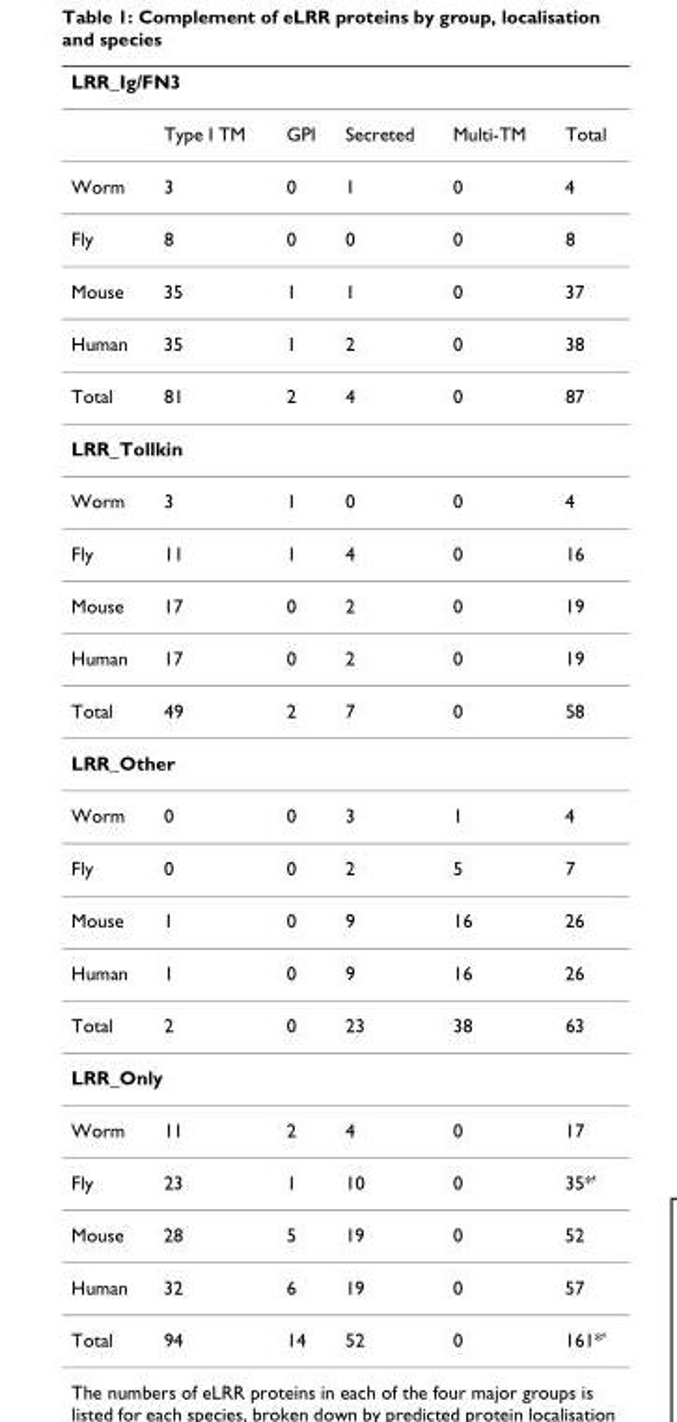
<table><thead><tr><td colspan="6">LRR_Ig/FN3</td></tr><tr><td></td><td>Type I TM</td><td>GPI</td><td>Secreted</td><td>Multi-TM</td><td>Total</td></tr></thead><tbody><tr><td>Worm</td><td>3</td><td>0</td><td>1</td><td>0</td><td>4</td></tr><tr><td>Fly</td><td>8</td><td>0</td><td>0</td><td>0</td><td>8</td></tr><tr><td>Mouse</td><td>35</td><td>1</td><td>1</td><td>0</td><td>37</td></tr><tr><td>Human</td><td>35</td><td>1</td><td>2</td><td>0</td><td>38</td></tr><tr><td>Total</td><td>81</td><td>2</td><td>4</td><td>0</td><td>87</td></tr><tr><td colspan="6">LRR_Tollkin</td></tr><tr><td>Worm</td><td>3</td><td>1</td><td>0</td><td>0</td><td>4</td></tr><tr><td>Fly</td><td>11</td><td>1</td><td>4</td><td>0</td><td>16</td></tr><tr><td>Mouse</td><td>17</td><td>0</td><td>2</td><td>0</td><td>19</td></tr><tr><td>Human</td><td>17</td><td>0</td><td>2</td><td>0</td><td>19</td></tr><tr><td>Total</td><td>49</td><td>2</td><td>7</td><td>0</td><td>58</td></tr><tr><td colspan="6">LRR_Other</td></tr><tr><td>Worm</td><td>0</td><td>0</td><td>3</td><td>1</td><td>4</td></tr><tr><td>Fly</td><td>0</td><td>0</td><td>2</td><td>5</td><td>7</td></tr><tr><td>Mouse</td><td>1</td><td>0</td><td>9</td><td>16</td><td>26</td></tr><tr><td>Human</td><td>1</td><td>0</td><td>9</td><td>16</td><td>26</td></tr><tr><td>Total</td><td>2</td><td>0</td><td>23</td><td>38</td><td>63</td></tr><tr><td colspan="6">LRR_Only</td></tr><tr><td>Worm</td><td>11</td><td>2</td><td>4</td><td>0</td><td>17</td></tr><tr><td>Fly</td><td>23</td><td>1</td><td>10</td><td>0</td><td>35*&#x27;</td></tr><tr><td>Mouse</td><td>28</td><td>5</td><td>19</td><td>0</td><td>52</td></tr><tr><td>Human</td><td>32</td><td>6</td><td>19</td><td>0</td><td>57</td></tr><tr><td>Total</td><td>94</td><td>14</td><td>52</td><td>0</td><td>161*&#x27;</td></tr></tbody></table>